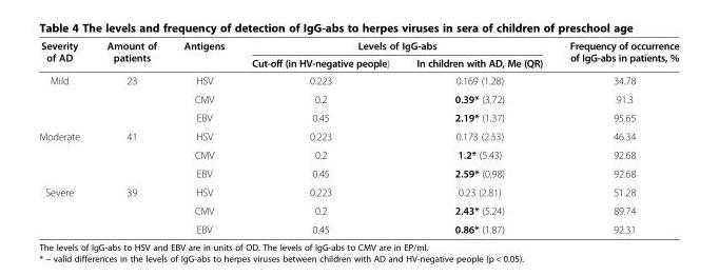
<table><thead><tr><td rowspan="2">Severity of AD</td><td rowspan="2">Amount of patients</td><td rowspan="2">Antigens</td><td colspan="2">Levels of IgG-abs</td><td rowspan="2">Frequency of occurrence of IgG-abs in patients, %</td></tr><tr><td>Cut-off (in HV-negative people)</td><td>In children with AD, Me (QR)</td></tr></thead><tbody><tr><td rowspan="3">Mild</td><td rowspan="3">23</td><td>HSV</td><td>0.223</td><td>0.169 (1.28)</td><td>34.78</td></tr><tr><td>CMV</td><td>0.2</td><td>0.39* (3.72)</td><td>91.3</td></tr><tr><td>EBV</td><td>0.45</td><td>2.19* (1.37)</td><td>95.65</td></tr><tr><td rowspan="3">Moderate</td><td rowspan="3">41</td><td>HSV</td><td>0.223</td><td>0.173 (2.53)</td><td>46.34</td></tr><tr><td>CMV</td><td>0.2</td><td>1.2* (5.43)</td><td>92.68</td></tr><tr><td>EBV</td><td>0.45</td><td>2.59* (0.98)</td><td>92.68</td></tr><tr><td rowspan="3">Severe</td><td rowspan="2">39</td><td>HSV</td><td>0.223</td><td>0.23 (2.81)</td><td>51.28</td></tr><tr><td>CMV</td><td>0.2</td><td>2.43* (5.24)</td><td>89.74</td></tr><tr><td></td><td>EBV</td><td>0.45</td><td>0.86* (1.87)</td><td>92.31</td></tr></tbody></table>